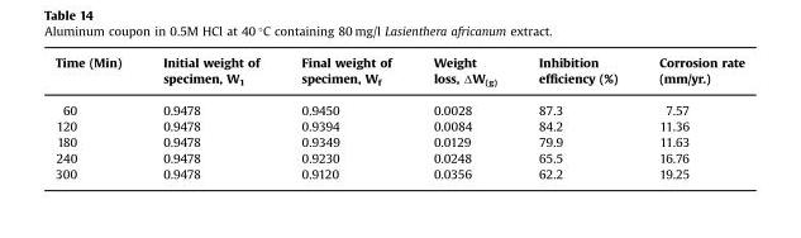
<table><thead><tr><td>Time (Min)</td><td>Initial weight of specimen, W<sub>1</sub></td><td>Final weight of specimen, W<sub>f</sub></td><td>Weight loss, ΔW(g)</td><td>Inhibition efficiency (%)</td><td>Corrosion rate (mm/yr.)</td></tr></thead><tbody><tr><td>60</td><td>0.9478</td><td>0.9450</td><td>0.0028</td><td>87.3</td><td>7.57</td></tr><tr><td>120</td><td>0.9478</td><td>0.9394</td><td>0.0084</td><td>84.2</td><td>11.36</td></tr><tr><td>180</td><td>0.9478</td><td>0.9349</td><td>0.0129</td><td>79.9</td><td>11.63</td></tr><tr><td>240</td><td>0.9478</td><td>0.9230</td><td>0.0248</td><td>65.5</td><td>16.76</td></tr><tr><td>300</td><td>0.9478</td><td>0.9120</td><td>0.0356</td><td>62.2</td><td>19.25</td></tr></tbody></table>